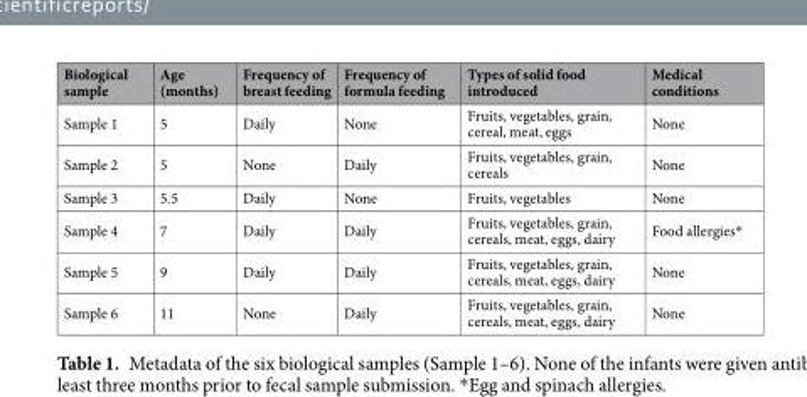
<table><thead><tr><td>Biological sample</td><td>Age (months)</td><td>Frequency of breast feeding</td><td>Frequency of formula feeding</td><td>Types of solid food introduced</td><td>Medical conditions</td></tr></thead><tbody><tr><td>Sample 1</td><td>5</td><td>Daily</td><td>None</td><td>Fruits, vegetables, grain, cereal, meat, eggs</td><td>None</td></tr><tr><td>Sample 2</td><td>5</td><td>None</td><td>Daily</td><td>Fruits, vegetables, grain, cereals</td><td>None</td></tr><tr><td>Sample 3</td><td>5.5</td><td>Daily</td><td>None</td><td>Fruits, vegetables</td><td>None</td></tr><tr><td>Sample 4</td><td>7</td><td>Daily</td><td>Daily</td><td>Fruits, vegetables, grain, cereals, meat, eggs, dairy</td><td>Food allergies*</td></tr><tr><td>Sample 5</td><td>9</td><td>Daily</td><td>Daily</td><td>Fruits, vegetables, grain, cereals, meat, eggs, dairy</td><td>None</td></tr><tr><td>Sample 6</td><td>11</td><td>None</td><td>Daily</td><td>Fruits, vegetables, grain, cereals, meat, eggs, dairy</td><td>None</td></tr></tbody></table>